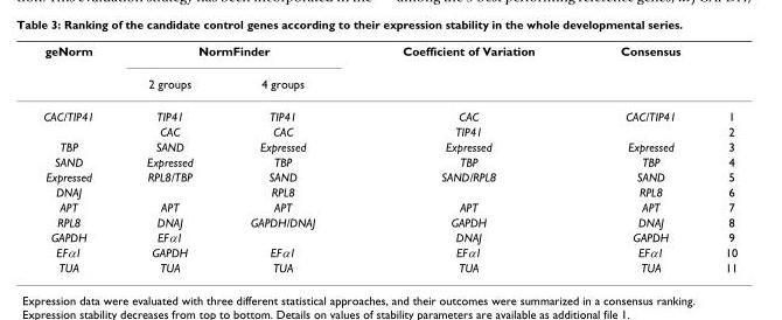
<table><thead><tr><td rowspan="2">geNorm</td><td colspan="2">NormFinder</td><td rowspan="2">Coefficient of Variation</td><td rowspan="2">Consensus</td><td rowspan="2"></td></tr><tr><td>2 groups</td><td>4 groups</td></tr></thead><tbody><tr><td rowspan="2">CAC/TIP41</td><td>TIP41</td><td>TIP41</td><td>CAC</td><td>CAC/TIP41</td><td>1</td></tr><tr><td>CAC</td><td>CAC</td><td>TIP41</td><td></td><td>2</td></tr><tr><td>TBP</td><td>SAND</td><td>Expressed</td><td>Expressed</td><td>Expressed</td><td>3</td></tr><tr><td>SAND</td><td>Expressed</td><td>TBP</td><td>TBP</td><td>TBP</td><td>4</td></tr><tr><td>Expressed</td><td>RPL8/TBP</td><td>SAND</td><td>SAND/RPL8</td><td>SAND</td><td>5</td></tr><tr><td>DNAJ</td><td></td><td>RPL8</td><td></td><td>RPL8</td><td>6</td></tr><tr><td>APT</td><td>APT</td><td>APT</td><td>APT</td><td>APT</td><td>7</td></tr><tr><td>RPL8</td><td>DNAJ</td><td>GAPDH/DNAJ</td><td>GAPDH</td><td>DNAJ</td><td>8</td></tr><tr><td>GAPDH</td><td>EFα1</td><td></td><td>DNAJ</td><td>GAPDH</td><td>9</td></tr><tr><td>EFα1</td><td>GAPDH</td><td>EFα1</td><td>EFα1</td><td>EFα1</td><td>10</td></tr><tr><td>TUA</td><td>TUA</td><td>TUA</td><td>TUA</td><td>TUA</td><td>11</td></tr></tbody></table>